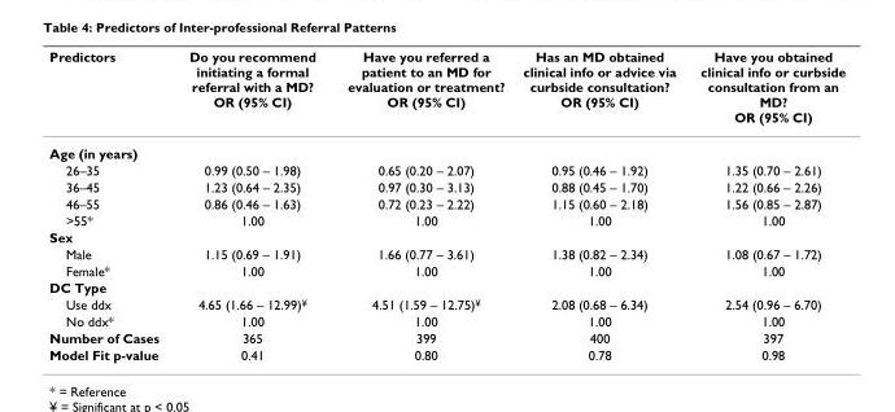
<table><thead><tr><td>Predictors</td><td>Do you recommend initiating a formal referral with a MD? OR (95% CI)</td><td>Have you referred a patient to an MD for evaluation or treatment? OR (95% CI)</td><td>Has an MD obtained clinical info or advice via curbside consultation? OR (95% CI)</td><td>Have you obtained clinical info or curbside consultation from an MD? OR (95% CI)</td></tr></thead><tbody><tr><td colspan="5">Age (in years)</td></tr><tr><td>26–35</td><td>0.99 (0.50 – 1.98)</td><td>0.65 (0.20 – 2.07)</td><td>0.95 (0.46 – 1.92)</td><td>1.35 (0.70 – 2.61)</td></tr><tr><td>36–45</td><td>1.23 (0.64 – 2.35)</td><td>0.97 (0.30 – 3.13)</td><td>0.88 (0.45 – 1.70)</td><td>1.22 (0.66 – 2.26)</td></tr><tr><td>46–55</td><td>0.86 (0.46 – 1.63)</td><td>0.72 (0.23 – 2.22)</td><td>1.15 (0.60 – 2.18)</td><td>1.56 (0.85 – 2.87)</td></tr><tr><td>&gt;55*</td><td>1.00</td><td>1.00</td><td>1.00</td><td>1.00</td></tr><tr><td colspan="5">Sex</td></tr><tr><td>Male</td><td>1.15 (0.69 – 1.91)</td><td>1.66 (0.77 – 3.61)</td><td>1.38 (0.82 – 2.34)</td><td>1.08 (0.67 – 1.72)</td></tr><tr><td>Female*</td><td>1.00</td><td>1.00</td><td>1.00</td><td>1.00</td></tr><tr><td colspan="5">DC Type</td></tr><tr><td>Use ddx</td><td>4.65 (1.66 – 12.99)<sup>¥</sup></td><td>4.51 (1.59 – 12.75)<sup>¥</sup></td><td>2.08 (0.68 – 6.34)</td><td>2.54 (0.96 – 6.70)</td></tr><tr><td>No ddx*</td><td>1.00</td><td>1.00</td><td>1.00</td><td>1.00</td></tr><tr><td>Number of Cases</td><td>365</td><td>399</td><td>400</td><td>397</td></tr><tr><td>Model Fit p-value</td><td>0.41</td><td>0.80</td><td>0.78</td><td>0.98</td></tr></tbody></table>